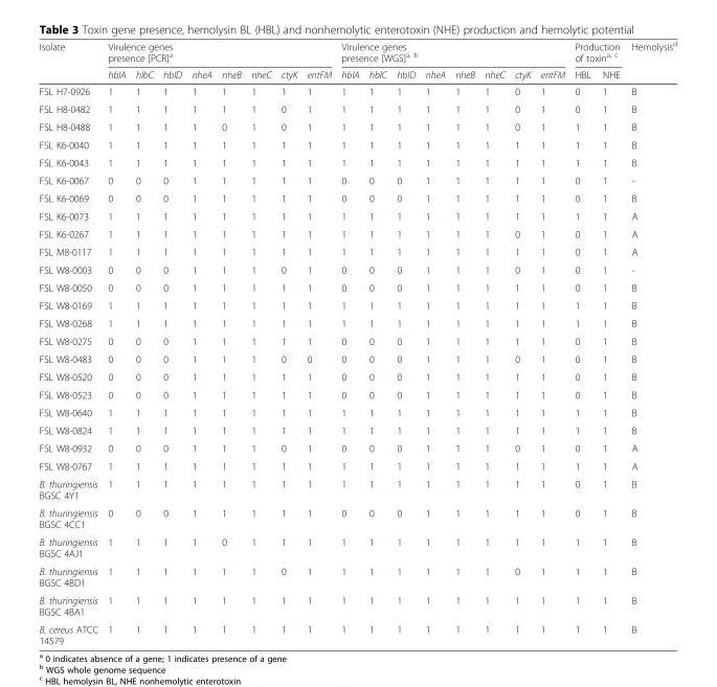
<table><thead><tr><td rowspan="2">Isolate</td><td colspan="8">Virulence genes presence [PCR]<sup>a</sup></td><td colspan="8">Virulence genes presence [WGS]<sup>a, b</sup></td><td colspan="2">Production of toxin<sup>a, c</sup></td><td rowspan="2">Hemolysis<sup>d</sup></td></tr><tr><td>hblA</td><td>hlbC</td><td>hblD</td><td>nheA</td><td>nheB</td><td>nheC</td><td>ctyK</td><td>entFM</td><td>hblA</td><td>hblC</td><td>hblD</td><td>nheA</td><td>nheB</td><td>nheC</td><td>ctyK</td><td>entFM</td><td>HBL</td><td>NHE</td></tr></thead><tbody><tr><td>FSL H7-0926</td><td>1</td><td>1</td><td>1</td><td>1</td><td>1</td><td>1</td><td>1</td><td>1</td><td>1</td><td>1</td><td>1</td><td>1</td><td>1</td><td>1</td><td>0</td><td>1</td><td>0</td><td>1</td><td>B</td></tr><tr><td>FSL H8-0482</td><td>1</td><td>1</td><td>1</td><td>1</td><td>1</td><td>1</td><td>0</td><td>1</td><td>1</td><td>1</td><td>1</td><td>1</td><td>1</td><td>1</td><td>0</td><td>1</td><td>0</td><td>1</td><td>B</td></tr><tr><td>FSL H8-0488</td><td>1</td><td>1</td><td>1</td><td>1</td><td>0</td><td>1</td><td>0</td><td>1</td><td>1</td><td>1</td><td>1</td><td>1</td><td>1</td><td>1</td><td>0</td><td>1</td><td>1</td><td>1</td><td>B</td></tr><tr><td>FSL K6-0040</td><td>1</td><td>1</td><td>1</td><td>1</td><td>1</td><td>1</td><td>1</td><td>1</td><td>1</td><td>1</td><td>1</td><td>1</td><td>1</td><td>1</td><td>1</td><td>1</td><td>1</td><td>1</td><td>B</td></tr><tr><td>FSL K6-0043</td><td>1</td><td>1</td><td>1</td><td>1</td><td>1</td><td>1</td><td>1</td><td>1</td><td>1</td><td>1</td><td>1</td><td>1</td><td>1</td><td>1</td><td>1</td><td>1</td><td>1</td><td>1</td><td>B</td></tr><tr><td>FSL K6-0067</td><td>0</td><td>0</td><td>0</td><td>1</td><td>1</td><td>1</td><td>1</td><td>1</td><td>0</td><td>0</td><td>0</td><td>1</td><td>1</td><td>1</td><td>1</td><td>1</td><td>0</td><td>1</td><td>-</td></tr><tr><td>FSL K6-0069</td><td>0</td><td>0</td><td>0</td><td>1</td><td>1</td><td>1</td><td>1</td><td>1</td><td>0</td><td>0</td><td>0</td><td>1</td><td>1</td><td>1</td><td>1</td><td>1</td><td>0</td><td>1</td><td>B</td></tr><tr><td>FSL K6-0073</td><td>1</td><td>1</td><td>1</td><td>1</td><td>1</td><td>1</td><td>1</td><td>1</td><td>1</td><td>1</td><td>1</td><td>1</td><td>1</td><td>1</td><td>1</td><td>1</td><td>1</td><td>1</td><td>A</td></tr><tr><td>FSL K6-0267</td><td>1</td><td>1</td><td>1</td><td>1</td><td>1</td><td>1</td><td>1</td><td>1</td><td>1</td><td>1</td><td>1</td><td>1</td><td>1</td><td>1</td><td>0</td><td>1</td><td>0</td><td>1</td><td>A</td></tr><tr><td>FSL M8-0117</td><td>1</td><td>1</td><td>1</td><td>1</td><td>1</td><td>1</td><td>1</td><td>1</td><td>1</td><td>1</td><td>1</td><td>1</td><td>1</td><td>1</td><td>1</td><td>1</td><td>0</td><td>1</td><td>A</td></tr><tr><td>FSL W8-0003</td><td>0</td><td>0</td><td>0</td><td>1</td><td>1</td><td>1</td><td>0</td><td>1</td><td>0</td><td>0</td><td>0</td><td>1</td><td>1</td><td>1</td><td>0</td><td>1</td><td>0</td><td>1</td><td>-</td></tr><tr><td>FSL W8-0050</td><td>0</td><td>0</td><td>0</td><td>1</td><td>1</td><td>1</td><td>1</td><td>1</td><td>0</td><td>0</td><td>0</td><td>1</td><td>1</td><td>1</td><td>1</td><td>1</td><td>0</td><td>1</td><td>B</td></tr><tr><td>FSL W8-0169</td><td>1</td><td>1</td><td>1</td><td>1</td><td>1</td><td>1</td><td>1</td><td>1</td><td>1</td><td>1</td><td>1</td><td>1</td><td>1</td><td>1</td><td>1</td><td>1</td><td>1</td><td>1</td><td>B</td></tr><tr><td>FSL W8-0268</td><td>1</td><td>1</td><td>1</td><td>1</td><td>1</td><td>1</td><td>1</td><td>1</td><td>1</td><td>1</td><td>1</td><td>1</td><td>1</td><td>1</td><td>1</td><td>1</td><td>1</td><td>1</td><td>B</td></tr><tr><td>FSL W8-0275</td><td>0</td><td>0</td><td>0</td><td>1</td><td>1</td><td>1</td><td>1</td><td>1</td><td>0</td><td>0</td><td>0</td><td>1</td><td>1</td><td>1</td><td>1</td><td>1</td><td>0</td><td>1</td><td>B</td></tr><tr><td>FSL W8-0483</td><td>0</td><td>0</td><td>0</td><td>1</td><td>1</td><td>1</td><td>0</td><td>0</td><td>0</td><td>0</td><td>0</td><td>1</td><td>1</td><td>1</td><td>0</td><td>1</td><td>0</td><td>1</td><td>B</td></tr><tr><td>FSL W8-0520</td><td>0</td><td>0</td><td>0</td><td>1</td><td>1</td><td>1</td><td>1</td><td>1</td><td>0</td><td>0</td><td>0</td><td>1</td><td>1</td><td>1</td><td>1</td><td>1</td><td>0</td><td>1</td><td>B</td></tr><tr><td>FSL W8-0523</td><td>0</td><td>0</td><td>0</td><td>1</td><td>1</td><td>1</td><td>1</td><td>1</td><td>0</td><td>0</td><td>0</td><td>1</td><td>1</td><td>1</td><td>1</td><td>1</td><td>0</td><td>1</td><td>B</td></tr><tr><td>FSL W8-0640</td><td>1</td><td>1</td><td>1</td><td>1</td><td>1</td><td>1</td><td>1</td><td>1</td><td>1</td><td>1</td><td>1</td><td>1</td><td>1</td><td>1</td><td>1</td><td>1</td><td>1</td><td>1</td><td>B</td></tr><tr><td>FSL W8-0824</td><td>1</td><td>1</td><td>1</td><td>1</td><td>1</td><td>1</td><td>1</td><td>1</td><td>1</td><td>1</td><td>1</td><td>1</td><td>1</td><td>1</td><td>1</td><td>1</td><td>1</td><td>1</td><td>B</td></tr><tr><td>FSL W8-0932</td><td>0</td><td>0</td><td>0</td><td>1</td><td>1</td><td>1</td><td>0</td><td>1</td><td>0</td><td>0</td><td>0</td><td>1</td><td>1</td><td>1</td><td>0</td><td>1</td><td>0</td><td>1</td><td>A</td></tr><tr><td>FSL W8-0767</td><td>1</td><td>1</td><td>1</td><td>1</td><td>1</td><td>1</td><td>1</td><td>1</td><td>1</td><td>1</td><td>1</td><td>1</td><td>1</td><td>1</td><td>1</td><td>1</td><td>1</td><td>1</td><td>A</td></tr><tr><td>B. thuringiensis BGSC 4Y1</td><td>1</td><td>1</td><td>1</td><td>1</td><td>1</td><td>1</td><td>1</td><td>1</td><td>1</td><td>1</td><td>1</td><td>1</td><td>1</td><td>1</td><td>1</td><td>1</td><td>0</td><td>1</td><td>B</td></tr><tr><td>B. thuringiensis BGSC 4CC1</td><td>0</td><td>0</td><td>0</td><td>1</td><td>1</td><td>1</td><td>1</td><td>1</td><td>0</td><td>0</td><td>0</td><td>1</td><td>1</td><td>1</td><td>1</td><td>1</td><td>0</td><td>1</td><td>B</td></tr><tr><td>B. thuringiensis BGSC 4AJ1</td><td>1</td><td>1</td><td>1</td><td>1</td><td>0</td><td>1</td><td>1</td><td>1</td><td>1</td><td>1</td><td>1</td><td>1</td><td>1</td><td>1</td><td>1</td><td>1</td><td>1</td><td>1</td><td>B</td></tr><tr><td>B. thuringiensis BGSC 4BD1</td><td>1</td><td>1</td><td>1</td><td>1</td><td>1</td><td>1</td><td>0</td><td>1</td><td>1</td><td>1</td><td>1</td><td>1</td><td>1</td><td>1</td><td>0</td><td>1</td><td>1</td><td>1</td><td>B</td></tr><tr><td>B. thuringiensis BGSC 4BA1</td><td>1</td><td>1</td><td>1</td><td>1</td><td>1</td><td>1</td><td>1</td><td>1</td><td>1</td><td>1</td><td>1</td><td>1</td><td>1</td><td>1</td><td>1</td><td>1</td><td>1</td><td>1</td><td>B</td></tr><tr><td>B. cereus ATCC 14579</td><td>1</td><td>1</td><td>1</td><td>1</td><td>1</td><td>1</td><td>1</td><td>1</td><td>1</td><td>1</td><td>1</td><td>1</td><td>1</td><td>1</td><td>1</td><td>1</td><td>1</td><td>1</td><td>B</td></tr></tbody></table>